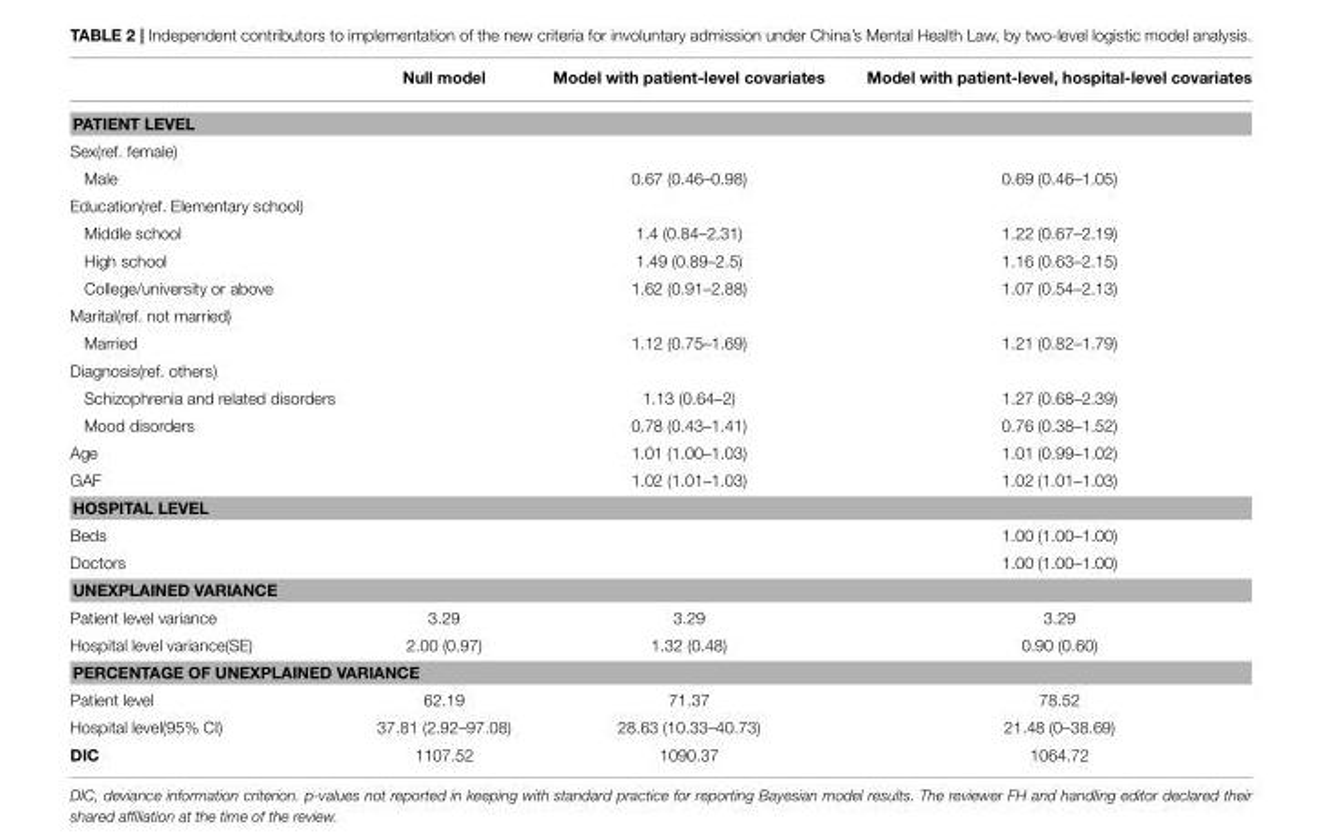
<table><thead><tr><td></td><td>Null model</td><td>Model with patient-level covariates</td><td>Model with patient-level, hospital-level covariates</td></tr></thead><tbody><tr><td colspan="4">PATIENT LEVEL</td></tr><tr><td colspan="4">Sex(ref. female)</td></tr><tr><td>Male</td><td></td><td>0.67 (0.46–0.98)</td><td>0.69 (0.46–1.05)</td></tr><tr><td colspan="4">Education(ref. Elementary school)</td></tr><tr><td>Middle school</td><td></td><td>1.4 (0.84–2.31)</td><td>1.22 (0.67–2.19)</td></tr><tr><td>High school</td><td></td><td>1.49 (0.89–2.5)</td><td>1.16 (0.63–2.15)</td></tr><tr><td>College/university or above</td><td></td><td>1.62 (0.91–2.88)</td><td>1.07 (0.54–2.13)</td></tr><tr><td colspan="4">Marital(ref. not married)</td></tr><tr><td>Married</td><td></td><td>1.12 (0.75–1.69)</td><td>1.21 (0.82–1.79)</td></tr><tr><td colspan="4">Diagnosis(ref. others)</td></tr><tr><td>Schizophrenia and related disorders</td><td></td><td>1.13 (0.64–2)</td><td>1.27 (0.68–2.39)</td></tr><tr><td>Mood disorders</td><td></td><td>0.78 (0.43–1.41)</td><td>0.76 (0.38–1.52)</td></tr><tr><td>Age</td><td></td><td>1.01 (1.00–1.03)</td><td>1.01 (0.99–1.02)</td></tr><tr><td>GAF</td><td></td><td>1.02 (1.01–1.03)</td><td>1.02 (1.01–1.03)</td></tr><tr><td colspan="4">HOSPITAL LEVEL</td></tr><tr><td>Beds</td><td></td><td></td><td>1.00 (1.00–1.00)</td></tr><tr><td>Doctors</td><td></td><td></td><td>1.00 (1.00–1.00)</td></tr><tr><td colspan="4">UNEXPLAINED VARIANCE</td></tr><tr><td>Patient level variance</td><td>3.29</td><td>3.29</td><td>3.29</td></tr><tr><td>Hospital level variance(SE)</td><td>2.00 (0.97)</td><td>1.32 (0.48)</td><td>0.90 (0.60)</td></tr><tr><td colspan="4">PERCENTAGE OF UNEXPLAINED VARIANCE</td></tr><tr><td>Patient level</td><td>62.19</td><td>71.37</td><td>78.52</td></tr><tr><td>Hospital level(95% CI)</td><td>37.81 (2.92–97.08)</td><td>28.63 (10.33–40.73)</td><td>21.48 (0–38.69)</td></tr><tr><td>DIC</td><td>1107.52</td><td>1090.37</td><td>1064.72</td></tr></tbody></table>